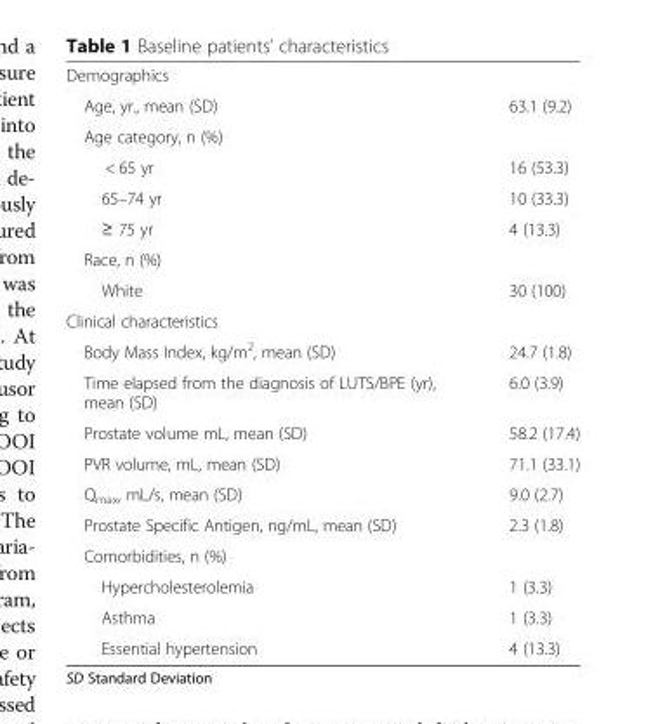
<table><tbody><tr><td colspan="2">Demographics</td></tr><tr><td>Age, yr., mean (SD)</td><td>63.1 (9.2)</td></tr><tr><td colspan="2">Age category, n (%)</td></tr><tr><td>&lt; 65 yr</td><td>16 (53.3)</td></tr><tr><td>65–74 yr</td><td>10 (33.3)</td></tr><tr><td>≥ 75 yr</td><td>4 (13.3)</td></tr><tr><td colspan="2">Race, n (%)</td></tr><tr><td>White</td><td>30 (100)</td></tr><tr><td colspan="2">Clinical characteristics</td></tr><tr><td>Body Mass Index, kg/m<sup>2</sup>, mean (SD)</td><td>24.7 (1.8)</td></tr><tr><td>Time elapsed from the diagnosis of LUTS/BPE (yr), mean (SD)</td><td>6.0 (3.9)</td></tr><tr><td>Prostate volume mL, mean (SD)</td><td>58.2 (17.4)</td></tr><tr><td>PVR volume, mL, mean (SD)</td><td>71.1 (33.1)</td></tr><tr><td>Q<sub>max</sub>, mL/s, mean (SD)</td><td>9.0 (2.7)</td></tr><tr><td>Prostate Specific Antigen, ng/mL, mean (SD)</td><td>2.3 (1.8)</td></tr><tr><td colspan="2">Comorbidities, n (%)</td></tr><tr><td>Hypercholesterolemia</td><td>1 (3.3)</td></tr><tr><td>Asthma</td><td>1 (3.3)</td></tr><tr><td>Essential hypertension</td><td>4 (13.3)</td></tr></tbody></table>